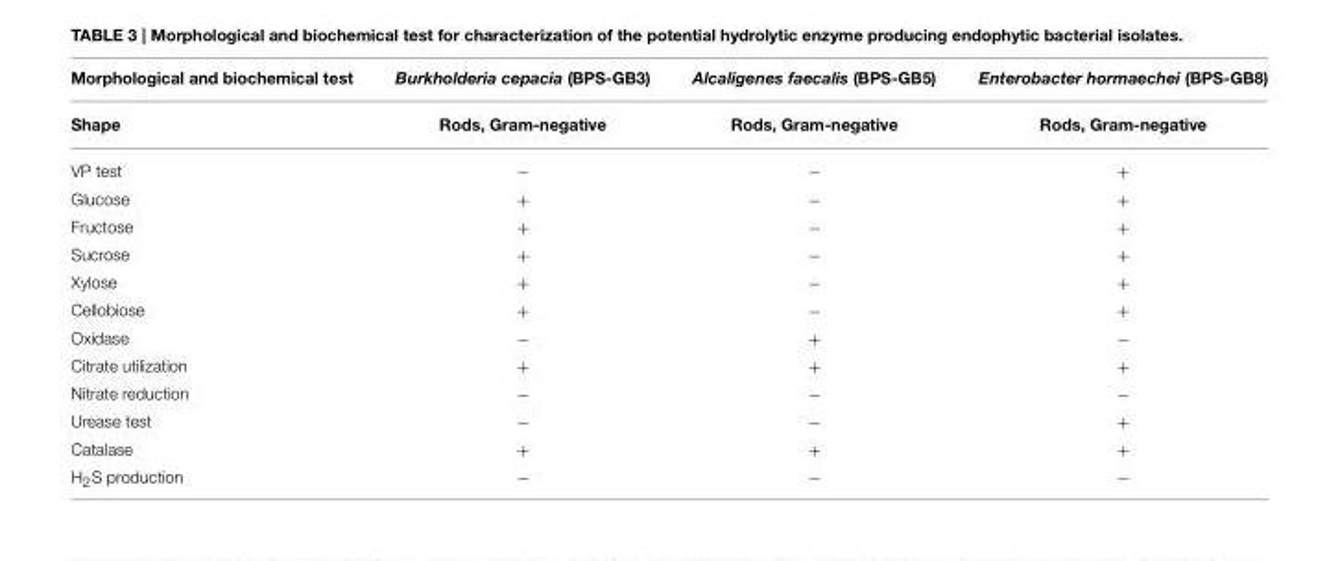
<table><thead><tr><td rowspan="2">Morphological and biochemical test Shape</td><td rowspan="2">Burkholderia cepacia (BPS-GB3) Rods, Gram-negative</td><td rowspan="2">Alcaligenes faecalis (BPS-GB5) Rods, Gram-negative</td><td rowspan="2">Enterobacter hormaechei (BPS-GB8) Rods, Gram-negative</td></tr><tr></tr></thead><tbody><tr><td>VP test</td><td>−</td><td>−</td><td>+</td></tr><tr><td>Glucose</td><td>+</td><td>−</td><td>+</td></tr><tr><td>Fructose</td><td>+</td><td>−</td><td>+</td></tr><tr><td>Sucrose</td><td>+</td><td>−</td><td>+</td></tr><tr><td>Xylose</td><td>+</td><td>−</td><td>+</td></tr><tr><td>Cellobiose</td><td>+</td><td>−</td><td>+</td></tr><tr><td>Oxidase</td><td>−</td><td>+</td><td>−</td></tr><tr><td>Citrate utilization</td><td>+</td><td>+</td><td>+</td></tr><tr><td>Nitrate reduction</td><td>−</td><td>−</td><td>−</td></tr><tr><td>Urease test</td><td>−</td><td>−</td><td>+</td></tr><tr><td>Catalase</td><td>+</td><td>+</td><td>+</td></tr><tr><td>H<sub>2</sub>S production</td><td>−</td><td>−</td><td>−</td></tr></tbody></table>